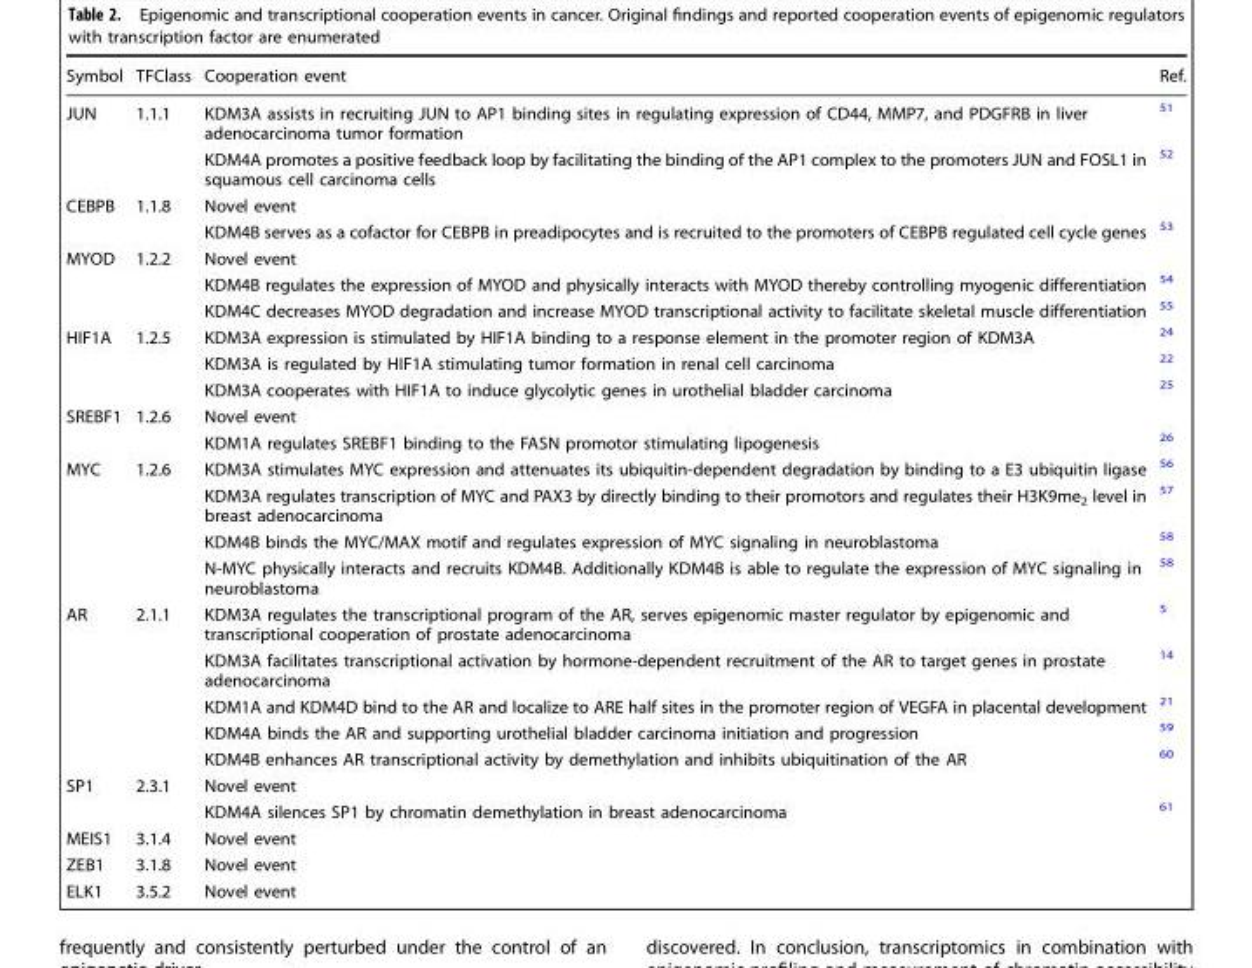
<table><thead><tr><td>Symbol</td><td>TFClass</td><td>Cooperation event</td><td>Ref.</td></tr></thead><tbody><tr><td rowspan="2">JUN</td><td>1.1.1</td><td>KDM3A assists in recruiting JUN to AP1 binding sites in regulating expression of CD44, MMP7, and PDGFRB in liver adenocarcinoma tumor formation</td><td><sup>51</sup></td></tr><tr><td></td><td>KDM4A promotes a positive feedback loop by facilitating the binding of the AP1 complex to the promoters JUN and FOSL1 in squamous cell carcinoma cells</td><td><sup>52</sup></td></tr><tr><td rowspan="2">CEBPB</td><td>1.1.8</td><td>Novel event</td><td></td></tr><tr><td></td><td>KDM4B serves as a cofactor for CEBPB in preadipocytes and is recruited to the promoters of CEBPB regulated cell cycle genes</td><td><sup>53</sup></td></tr><tr><td rowspan="3">MYOD</td><td>1.2.2</td><td>Novel event</td><td></td></tr><tr><td></td><td>KDM4B regulates the expression of MYOD and physically interacts with MYOD thereby controlling myogenic differentiation</td><td><sup>54</sup></td></tr><tr><td></td><td>KDM4C decreases MYOD degradation and increase MYOD transcriptional activity to facilitate skeletal muscle differentiation</td><td><sup>55</sup></td></tr><tr><td rowspan="3">HIF1A</td><td>1.2.5</td><td>KDM3A expression is stimulated by HIF1A binding to a response element in the promoter region of KDM3A</td><td><sup>24</sup></td></tr><tr><td></td><td>KDM3A is regulated by HIF1A stimulating tumor formation in renal cell carcinoma</td><td><sup>22</sup></td></tr><tr><td></td><td>KDM3A cooperates with HIF1A to induce glycolytic genes in urothelial bladder carcinoma</td><td><sup>25</sup></td></tr><tr><td rowspan="2">SREBF1</td><td>1.2.6</td><td>Novel event</td><td></td></tr><tr><td></td><td>KDM1A regulates SREBF1 binding to the FASN promotor stimulating lipogenesis</td><td><sup>26</sup></td></tr><tr><td rowspan="4">MYC</td><td>1.2.6</td><td>KDM3A stimulates MYC expression and attenuates its ubiquitin-dependent degradation by binding to a E3 ubiquitin ligase</td><td><sup>56</sup></td></tr><tr><td></td><td>KDM3A regulates transcription of MYC and PAX3 by directly binding to their promotors and regulates their H3K9me<sub>2</sub> level in breast adenocarcinoma</td><td><sup>57</sup></td></tr><tr><td></td><td>KDM4B binds the MYC/MAX motif and regulates expression of MYC signaling in neuroblastoma</td><td><sup>58</sup></td></tr><tr><td></td><td>N-MYC physically interacts and recruits KDM4B. Additionally KDM4B is able to regulate the expression of MYC signaling in neuroblastoma</td><td><sup>58</sup></td></tr><tr><td rowspan="5">AR</td><td>2.1.1</td><td>KDM3A regulates the transcriptional program of the AR, serves epigenomic master regulator by epigenomic and transcriptional cooperation of prostate adenocarcinoma</td><td><sup>5</sup></td></tr><tr><td></td><td>KDM3A facilitates transcriptional activation by hormone-dependent recruitment of the AR to target genes in prostate adenocarcinoma</td><td><sup>14</sup></td></tr><tr><td></td><td>KDM1A and KDM4D bind to the AR and localize to ARE half sites in the promoter region of VEGFA in placental development</td><td><sup>21</sup></td></tr><tr><td></td><td>KDM4A binds the AR and supporting urothelial bladder carcinoma initiation and progression</td><td><sup>59</sup></td></tr><tr><td></td><td>KDM4B enhances AR transcriptional activity by demethylation and inhibits ubiquitination of the AR</td><td><sup>60</sup></td></tr><tr><td rowspan="2">SP1</td><td>2.3.1</td><td>Novel event</td><td></td></tr><tr><td></td><td>KDM4A silences SP1 by chromatin demethylation in breast adenocarcinoma</td><td><sup>61</sup></td></tr><tr><td>MEIS1</td><td>3.1.4</td><td>Novel event</td><td></td></tr><tr><td>ZEB1</td><td>3.1.8</td><td>Novel event</td><td></td></tr><tr><td>ELK1</td><td>3.5.2</td><td>Novel event</td><td></td></tr></tbody></table>